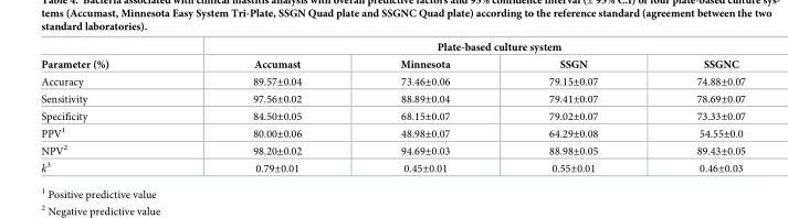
<table><thead><tr><td rowspan="2">Parameter (%)</td><td colspan="4">Plate-based culture system</td></tr><tr><td>Accumast</td><td>Minnesota</td><td>SSGN</td><td>SSGNC</td></tr></thead><tbody><tr><td>Accuracy</td><td>89.57±0.04</td><td>73.46±0.06</td><td>79.15±0.07</td><td>74.88±0.07</td></tr><tr><td>Sensitivity</td><td>97.56±0.02</td><td>88.89±0.04</td><td>79.41±0.07</td><td>78.69±0.07</td></tr><tr><td>Specificity</td><td>84.50±0.05</td><td>68.15±0.07</td><td>79.02±0.07</td><td>73.33±0.07</td></tr><tr><td>PPV<sup>1</sup></td><td>80.00±0.06</td><td>48.98±0.07</td><td>64.29±0.08</td><td>54.55±0.0</td></tr><tr><td>NPV<sup>2</sup></td><td>98.20±0.02</td><td>94.69±0.03</td><td>88.98±0.05</td><td>89.43±0.05</td></tr><tr><td>k<sup>3</sup></td><td>0.79±0.01</td><td>0.45±0.01</td><td>0.55±0.01</td><td>0.46±0.03</td></tr></tbody></table>